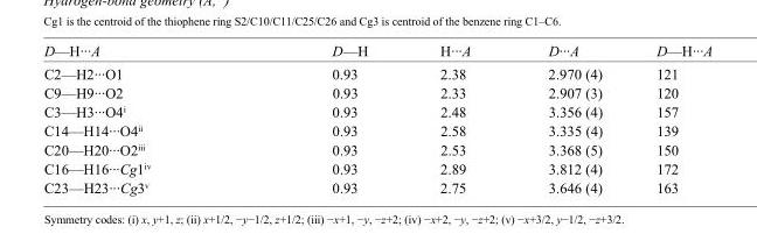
<table><tbody><tr><td>D—H···A</td><td>D—H</td><td>H···A</td><td>D···A</td><td>D—H···A</td></tr><tr><td>C2—H2···O1</td><td>0.93</td><td>2.38</td><td>2.970 (4)</td><td>121</td></tr><tr><td>C9—H9···O2</td><td>0.93</td><td>2.33</td><td>2.907 (3)</td><td>120</td></tr><tr><td>C3—H3···O4<sup>i</sup></td><td>0.93</td><td>2.48</td><td>3.356 (4)</td><td>157</td></tr><tr><td>C14—H14···O4<sup>ii</sup></td><td>0.93</td><td>2.58</td><td>3.335 (4)</td><td>139</td></tr><tr><td>C20—H20···O2<sup>iii</sup></td><td>0.93</td><td>2.53</td><td>3.368 (5)</td><td>150</td></tr><tr><td>C16—H16···Cg1<sup>iv</sup></td><td>0.93</td><td>2.89</td><td>3.812 (4)</td><td>172</td></tr><tr><td>C23—H23···Cg3<sup>v</sup></td><td>0.93</td><td>2.75</td><td>3.646 (4)</td><td>163</td></tr></tbody></table>